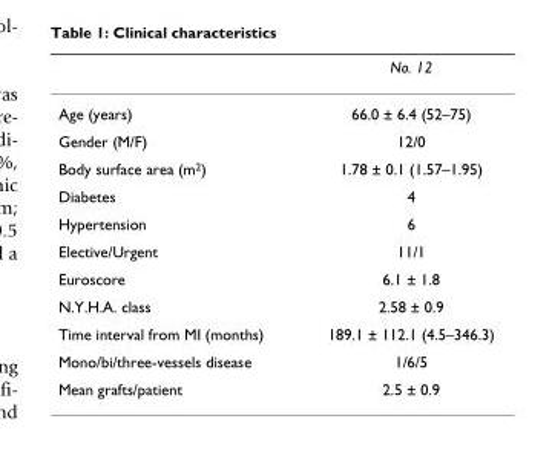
<table><thead><tr><td></td><td>No. 12</td></tr></thead><tbody><tr><td>Age (years)</td><td>66.0 ± 6.4 (52–75)</td></tr><tr><td>Gender (M/F)</td><td>12/0</td></tr><tr><td>Body surface area (m<sup>2</sup>)</td><td>1.78 ± 0.1 (1.57–1.95)</td></tr><tr><td>Diabetes</td><td>4</td></tr><tr><td>Hypertension</td><td>6</td></tr><tr><td>Elective/Urgent</td><td>11/1</td></tr><tr><td>Euroscore</td><td>6.1 ± 1.8</td></tr><tr><td>N.Y.H.A. class</td><td>2.58 ± 0.9</td></tr><tr><td>Time interval from MI (months)</td><td>189.1 ± 112.1 (4.5–346.3)</td></tr><tr><td>Mono/bi/three-vessels disease</td><td>1/6/5</td></tr><tr><td>Mean grafts/patient</td><td>2.5 ± 0.9</td></tr></tbody></table>